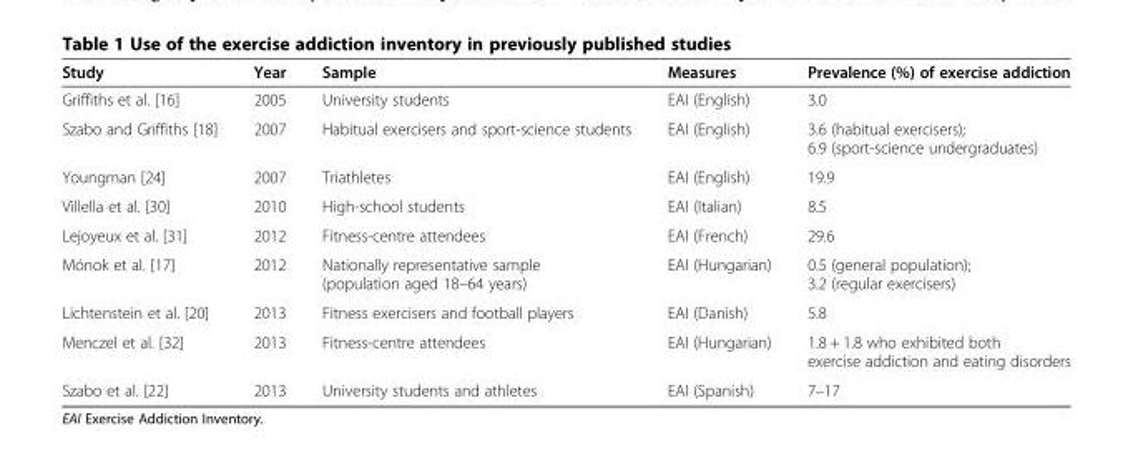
<table><thead><tr><td>Study</td><td>Year</td><td>Sample</td><td>Measures</td><td>Prevalence (%) of exercise addiction</td></tr></thead><tbody><tr><td>Griffiths et al. [16]</td><td>2005</td><td>University students</td><td>EAI (English)</td><td>3.0</td></tr><tr><td>Szabo and Griffiths [18]</td><td>2007</td><td>Habitual exercisers and sport-science students</td><td>EAI (English)</td><td>3.6 (habitual exercisers); 6.9 (sport-science undergraduates)</td></tr><tr><td>Youngman [24]</td><td>2007</td><td>Triathletes</td><td>EAI (English)</td><td>19.9</td></tr><tr><td>Villella et al. [30]</td><td>2010</td><td>High-school students</td><td>EAI (Italian)</td><td>8.5</td></tr><tr><td>Lejoyeux et al. [31]</td><td>2012</td><td>Fitness-centre attendees</td><td>EAI (French)</td><td>29.6</td></tr><tr><td>Mónok et al. [17]</td><td>2012</td><td>Nationally representative sample (population aged 18–64 years)</td><td>EAI (Hungarian)</td><td>0.5 (general population); 3.2 (regular exercisers)</td></tr><tr><td>Lichtenstein et al. [20]</td><td>2013</td><td>Fitness exercisers and football players</td><td>EAI (Danish)</td><td>5.8</td></tr><tr><td>Menczel et al. [32]</td><td>2013</td><td>Fitness-centre attendees</td><td>EAI (Hungarian)</td><td>1.8 + 1.8 who exhibited both exercise addiction and eating disorders</td></tr><tr><td>Szabo et al. [22]</td><td>2013</td><td>University students and athletes</td><td>EAI (Spanish)</td><td>7–17</td></tr></tbody></table>